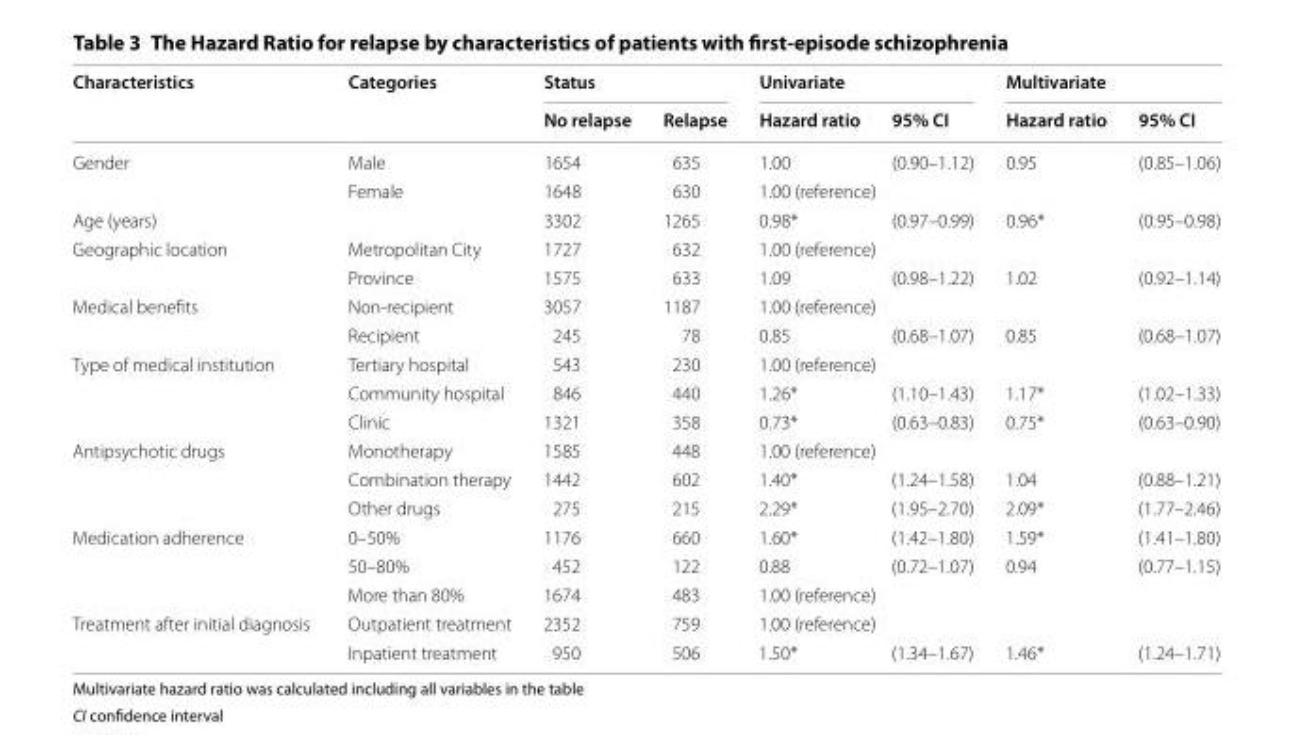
<table><thead><tr><td rowspan="2">Characteristics</td><td rowspan="2">Categories</td><td colspan="2">Status</td><td colspan="2">Univariate</td><td colspan="2">Multivariate</td></tr><tr><td>No relapse</td><td>Relapse</td><td>Hazard ratio</td><td>95% CI</td><td>Hazard ratio</td><td>95% CI</td></tr></thead><tbody><tr><td rowspan="2">Gender</td><td>Male</td><td>1654</td><td>635</td><td>1.00</td><td>(0.90–1.12)</td><td>0.95</td><td>(0.85–1.06)</td></tr><tr><td>Female</td><td>1648</td><td>630</td><td colspan="4">1.00 (reference)</td></tr><tr><td colspan="2">Age (years)</td><td>3302</td><td>1265</td><td>0.98*</td><td>(0.97–0.99)</td><td>0.96*</td><td>(0.95–0.98)</td></tr><tr><td rowspan="2">Geographic location</td><td>Metropolitan City</td><td>1727</td><td>632</td><td colspan="4">1.00 (reference)</td></tr><tr><td>Province</td><td>1575</td><td>633</td><td>1.09</td><td>(0.98–1.22)</td><td>1.02</td><td>(0.92–1.14)</td></tr><tr><td rowspan="2">Medical benefits</td><td>Non‑recipient</td><td>3057</td><td>1187</td><td colspan="4">1.00 (reference)</td></tr><tr><td>Recipient</td><td>245</td><td>78</td><td>0.85</td><td>(0.68–1.07)</td><td>0.85</td><td>(0.68–1.07)</td></tr><tr><td rowspan="3">Type of medical institution</td><td>Tertiary hospital</td><td>543</td><td>230</td><td colspan="4">1.00 (reference)</td></tr><tr><td>Community hospital</td><td>846</td><td>440</td><td>1.26*</td><td>(1.10–1.43)</td><td>1.17*</td><td>(1.02–1.33)</td></tr><tr><td>Clinic</td><td>1321</td><td>358</td><td>0.73*</td><td>(0.63–0.83)</td><td>0.75*</td><td>(0.63–0.90)</td></tr><tr><td rowspan="3">Antipsychotic drugs</td><td>Monotherapy</td><td>1585</td><td>448</td><td colspan="4">1.00 (reference)</td></tr><tr><td>Combination therapy</td><td>1442</td><td>602</td><td>1.40*</td><td>(1.24–1.58)</td><td>1.04</td><td>(0.88–1.21)</td></tr><tr><td>Other drugs</td><td>275</td><td>215</td><td>2.29*</td><td>(1.95–2.70)</td><td>2.09*</td><td>(1.77–2.46)</td></tr><tr><td rowspan="3">Medication adherence</td><td>0–50%</td><td>1176</td><td>660</td><td>1.60*</td><td>(1.42–1.80)</td><td>1.59*</td><td>(1.41–1.80)</td></tr><tr><td>50–80%</td><td>452</td><td>122</td><td>0.88</td><td>(0.72–1.07)</td><td>0.94</td><td>(0.77–1.15)</td></tr><tr><td>More than 80%</td><td>1674</td><td>483</td><td colspan="4">1.00 (reference)</td></tr><tr><td rowspan="2">Treatment after initial diagnosis</td><td>Outpatient treatment</td><td>2352</td><td>759</td><td colspan="4">1.00 (reference)</td></tr><tr><td>Inpatient treatment</td><td>950</td><td>506</td><td>1.50*</td><td>(1.34–1.67)</td><td>1.46*</td><td>(1.24–1.71)</td></tr></tbody></table>